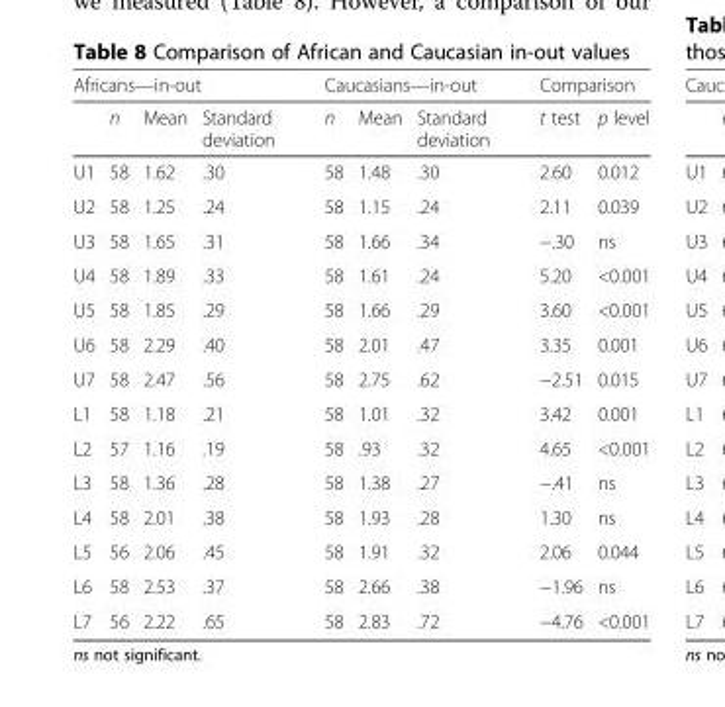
<table><thead><tr><td colspan="4">Africans—in-out</td><td colspan="3">Caucasians—in-out</td><td colspan="2">Comparison</td></tr><tr><td></td><td>n</td><td>Mean</td><td>Standard deviation</td><td>n</td><td>Mean</td><td>Standard deviation</td><td>t test</td><td>p level</td></tr></thead><tbody><tr><td>U1</td><td>58</td><td>1.62</td><td>.30</td><td>58</td><td>1.48</td><td>.30</td><td>2.60</td><td>0.012</td></tr><tr><td>U2</td><td>58</td><td>1.25</td><td>.24</td><td>58</td><td>1.15</td><td>.24</td><td>2.11</td><td>0.039</td></tr><tr><td>U3</td><td>58</td><td>1.65</td><td>.31</td><td>58</td><td>1.66</td><td>.34</td><td>−.30</td><td>ns</td></tr><tr><td>U4</td><td>58</td><td>1.89</td><td>.33</td><td>58</td><td>1.61</td><td>.24</td><td>5.20</td><td>&lt;0.001</td></tr><tr><td>U5</td><td>58</td><td>1.85</td><td>.29</td><td>58</td><td>1.66</td><td>.29</td><td>3.60</td><td>&lt;0.001</td></tr><tr><td>U6</td><td>58</td><td>2.29</td><td>.40</td><td>58</td><td>2.01</td><td>.47</td><td>3.35</td><td>0.001</td></tr><tr><td>U7</td><td>58</td><td>2.47</td><td>.56</td><td>58</td><td>2.75</td><td>.62</td><td>−2.51</td><td>0.015</td></tr><tr><td>L1</td><td>58</td><td>1.18</td><td>.21</td><td>58</td><td>1.01</td><td>.32</td><td>3.42</td><td>0.001</td></tr><tr><td>L2</td><td>57</td><td>1.16</td><td>.19</td><td>58</td><td>.93</td><td>.32</td><td>4.65</td><td>&lt;0.001</td></tr><tr><td>L3</td><td>58</td><td>1.36</td><td>.28</td><td>58</td><td>1.38</td><td>.27</td><td>−.41</td><td>ns</td></tr><tr><td>L4</td><td>58</td><td>2.01</td><td>.38</td><td>58</td><td>1.93</td><td>.28</td><td>1.30</td><td>ns</td></tr><tr><td>L5</td><td>56</td><td>2.06</td><td>.45</td><td>58</td><td>1.91</td><td>.32</td><td>2.06</td><td>0.044</td></tr><tr><td>L6</td><td>58</td><td>2.53</td><td>.37</td><td>58</td><td>2.66</td><td>.38</td><td>−1.96</td><td>ns</td></tr><tr><td>L7</td><td>56</td><td>2.22</td><td>.65</td><td>58</td><td>2.83</td><td>.72</td><td>−4.76</td><td>&lt;0.001</td></tr></tbody></table>